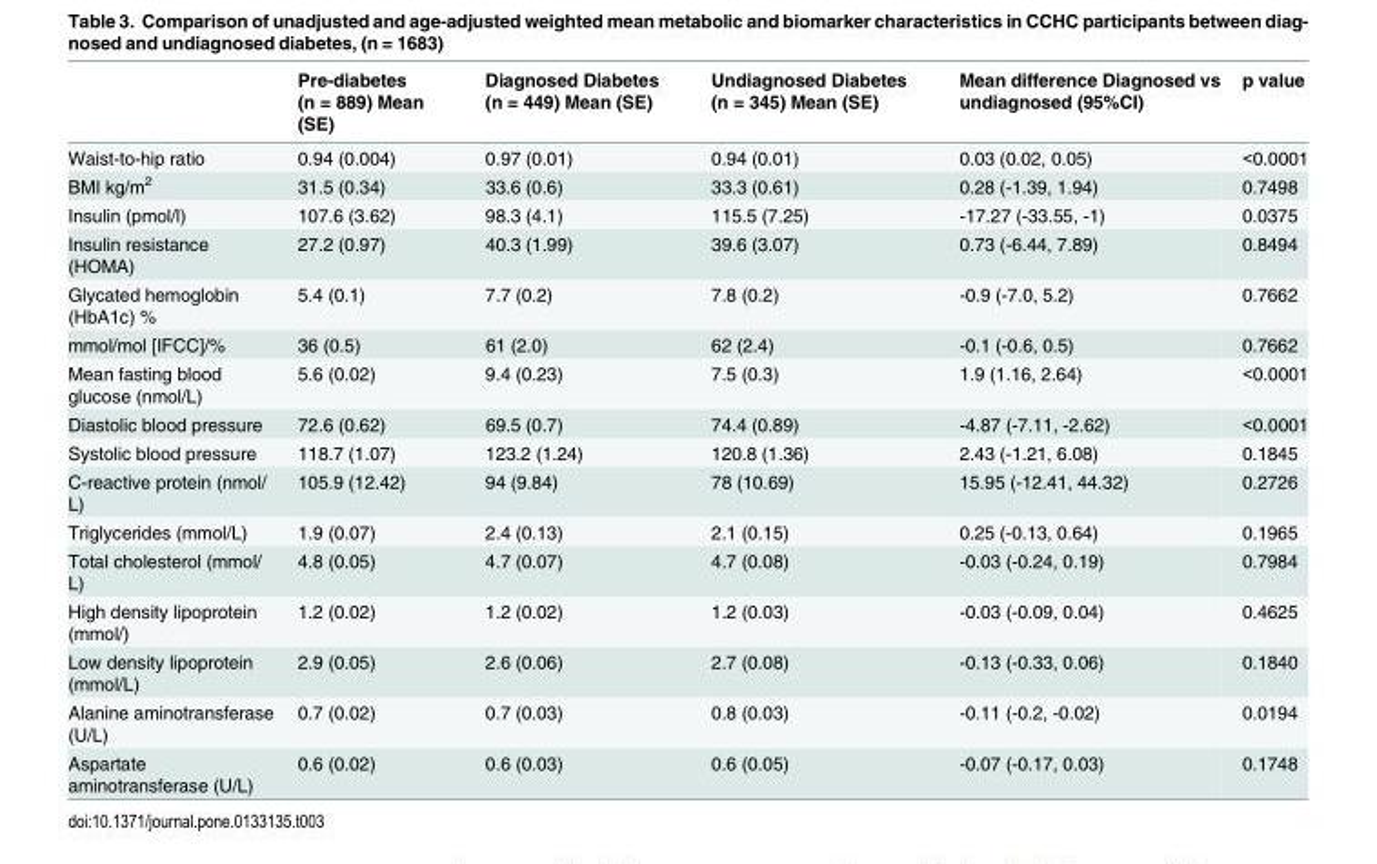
<table><thead><tr><td></td><td>Pre-diabetes (n = 889) Mean (SE)</td><td>Diagnosed Diabetes (n = 449) Mean (SE)</td><td>Undiagnosed Diabetes (n = 345) Mean (SE)</td><td>Mean difference Diagnosed vs undiagnosed (95%CI)</td><td>p value</td></tr></thead><tbody><tr><td>Waist-to-hip ratio</td><td>0.94 (0.004)</td><td>0.97 (0.01)</td><td>0.94 (0.01)</td><td>0.03 (0.02, 0.05)</td><td>&lt;0.0001</td></tr><tr><td>BMI kg/m<sup>2</sup></td><td>31.5 (0.34)</td><td>33.6 (0.6)</td><td>33.3 (0.61)</td><td>0.28 (-1.39, 1.94)</td><td>0.7498</td></tr><tr><td>Insulin (pmol/l)</td><td>107.6 (3.62)</td><td>98.3 (4.1)</td><td>115.5 (7.25)</td><td>-17.27 (-33.55, -1)</td><td>0.0375</td></tr><tr><td>Insulin resistance (HOMA)</td><td>27.2 (0.97)</td><td>40.3 (1.99)</td><td>39.6 (3.07)</td><td>0.73 (-6.44, 7.89)</td><td>0.8494</td></tr><tr><td>Glycated hemoglobin (HbA1c) %</td><td>5.4 (0.1)</td><td>7.7 (0.2)</td><td>7.8 (0.2)</td><td>-0.9 (-7.0, 5.2)</td><td>0.7662</td></tr><tr><td>mmol/mol [IFCC]/%</td><td>36 (0.5)</td><td>61 (2.0)</td><td>62 (2.4)</td><td>-0.1 (-0.6, 0.5)</td><td>0.7662</td></tr><tr><td>Mean fasting blood glucose (nmol/L)</td><td>5.6 (0.02)</td><td>9.4 (0.23)</td><td>7.5 (0.3)</td><td>1.9 (1.16, 2.64)</td><td>&lt;0.0001</td></tr><tr><td>Diastolic blood pressure</td><td>72.6 (0.62)</td><td>69.5 (0.7)</td><td>74.4 (0.89)</td><td>-4.87 (-7.11, -2.62)</td><td>&lt;0.0001</td></tr><tr><td>Systolic blood pressure</td><td>118.7 (1.07)</td><td>123.2 (1.24)</td><td>120.8 (1.36)</td><td>2.43 (-1.21, 6.08)</td><td>0.1845</td></tr><tr><td>C-reactive protein (nmol/ L)</td><td>105.9 (12.42)</td><td>94 (9.84)</td><td>78 (10.69)</td><td>15.95 (-12.41, 44.32)</td><td>0.2726</td></tr><tr><td>Triglycerides (mmol/L)</td><td>1.9 (0.07)</td><td>2.4 (0.13)</td><td>2.1 (0.15)</td><td>0.25 (-0.13, 0.64)</td><td>0.1965</td></tr><tr><td>Total cholesterol (mmol/ L)</td><td>4.8 (0.05)</td><td>4.7 (0.07)</td><td>4.7 (0.08)</td><td>-0.03 (-0.24, 0.19)</td><td>0.7984</td></tr><tr><td>High density lipoprotein (mmol/)</td><td>1.2 (0.02)</td><td>1.2 (0.02)</td><td>1.2 (0.03)</td><td>-0.03 (-0.09, 0.04)</td><td>0.4625</td></tr><tr><td>Low density lipoprotein (mmol/L)</td><td>2.9 (0.05)</td><td>2.6 (0.06)</td><td>2.7 (0.08)</td><td>-0.13 (-0.33, 0.06)</td><td>0.1840</td></tr><tr><td>Alanine aminotransferase (U/L)</td><td>0.7 (0.02)</td><td>0.7 (0.03)</td><td>0.8 (0.03)</td><td>-0.11 (-0.2, -0.02)</td><td>0.0194</td></tr><tr><td>Aspartate aminotransferase (U/L)</td><td>0.6 (0.02)</td><td>0.6 (0.03)</td><td>0.6 (0.05)</td><td>-0.07 (-0.17, 0.03)</td><td>0.1748</td></tr></tbody></table>